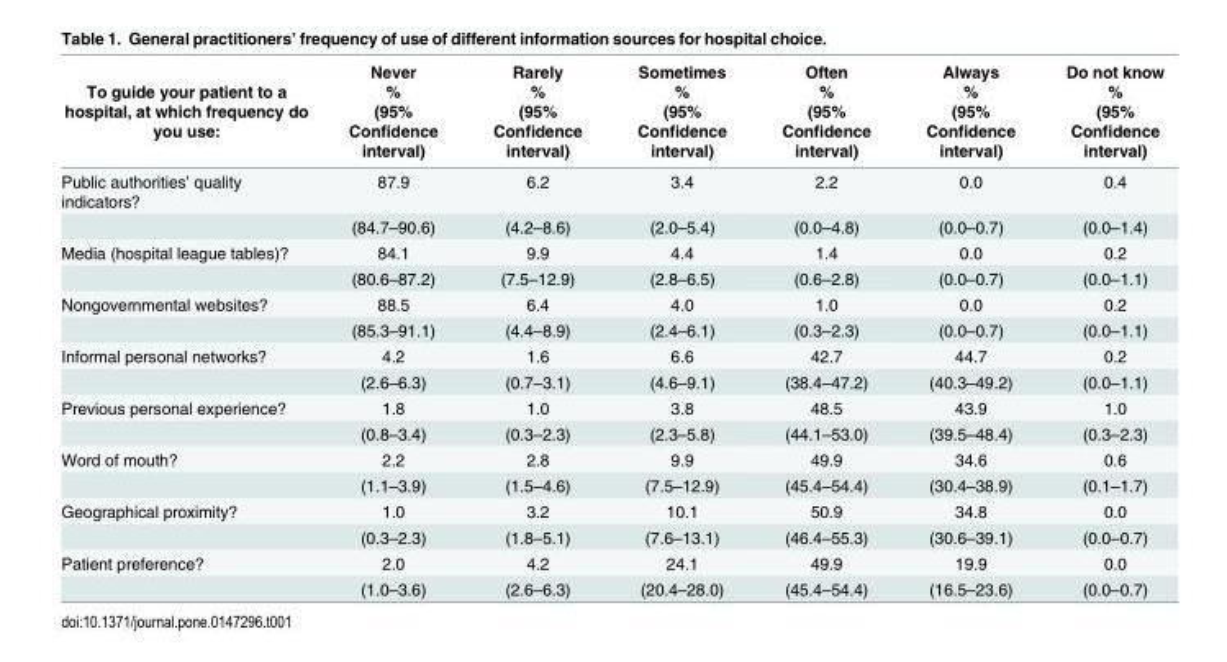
<table><thead><tr><td rowspan="3">To guide your patient to a hospital, at which frequency do you use:</td><td rowspan="3">Never % (95% Confidence interval)</td><td rowspan="3">Rarely % (95% Confidence interval)</td><td rowspan="3">Sometimes % (95% Confidence interval)</td><td rowspan="3">Often % (95% Confidence interval)</td><td rowspan="3">Always % (95% Confidence interval)</td><td rowspan="3">Do not know % (95% Confidence interval)</td></tr><tr></tr><tr></tr></thead><tbody><tr><td rowspan="2">Public authorities’ quality indicators?</td><td>87.9</td><td>6.2</td><td>3.4</td><td>2.2</td><td>0.0</td><td>0.4</td></tr><tr><td>(84.7–90.6)</td><td>(4.2–8.6)</td><td>(2.0–5.4)</td><td>(0.0–4.8)</td><td>(0.0–0.7)</td><td>(0.0–1.4)</td></tr><tr><td rowspan="2">Media (hospital league tables)?</td><td>84.1</td><td>9.9</td><td>4.4</td><td>1.4</td><td>0.0</td><td>0.2</td></tr><tr><td>(80.6–87.2)</td><td>(7.5–12.9)</td><td>(2.8–6.5)</td><td>(0.6–2.8)</td><td>(0.0–0.7)</td><td>(0.0–1.1)</td></tr><tr><td rowspan="2">Nongovernmental websites?</td><td>88.5</td><td>6.4</td><td>4.0</td><td>1.0</td><td>0.0</td><td>0.2</td></tr><tr><td>(85.3–91.1)</td><td>(4.4–8.9)</td><td>(2.4–6.1)</td><td>(0.3–2.3)</td><td>(0.0–0.7)</td><td>(0.0–1.1)</td></tr><tr><td rowspan="2">Informal personal networks?</td><td>4.2</td><td>1.6</td><td>6.6</td><td>42.7</td><td>44.7</td><td>0.2</td></tr><tr><td>(2.6–6.3)</td><td>(0.7–3.1)</td><td>(4.6–9.1)</td><td>(38.4–47.2)</td><td>(40.3–49.2)</td><td>(0.0–1.1)</td></tr><tr><td rowspan="2">Previous personal experience?</td><td>1.8</td><td>1.0</td><td>3.8</td><td>48.5</td><td>43.9</td><td>1.0</td></tr><tr><td>(0.8–3.4)</td><td>(0.3–2.3)</td><td>(2.3–5.8)</td><td>(44.1–53.0)</td><td>(39.5–48.4)</td><td>(0.3–2.3)</td></tr><tr><td rowspan="2">Word of mouth?</td><td>2.2</td><td>2.8</td><td>9.9</td><td>49.9</td><td>34.6</td><td>0.6</td></tr><tr><td>(1.1–3.9)</td><td>(1.5–4.6)</td><td>(7.5–12.9)</td><td>(45.4–54.4)</td><td>(30.4–38.9)</td><td>(0.1–1.7)</td></tr><tr><td rowspan="2">Geographical proximity?</td><td>1.0</td><td>3.2</td><td>10.1</td><td>50.9</td><td>34.8</td><td>0.0</td></tr><tr><td>(0.3–2.3)</td><td>(1.8–5.1)</td><td>(7.6–13.1)</td><td>(46.4–55.3)</td><td>(30.6–39.1)</td><td>(0.0–0.7)</td></tr><tr><td rowspan="2">Patient preference?</td><td>2.0</td><td>4.2</td><td>24.1</td><td>49.9</td><td>19.9</td><td>0.0</td></tr><tr><td>(1.0–3.6)</td><td>(2.6–6.3)</td><td>(20.4–28.0)</td><td>(45.4–54.4)</td><td>(16.5–23.6)</td><td>(0.0–0.7)</td></tr></tbody></table>